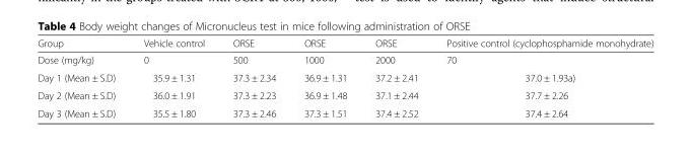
<table><thead><tr><td>Group</td><td>Vehicle control</td><td>ORSE</td><td>ORSE</td><td>ORSE</td><td>Positive control (cyclophosphamide monohydrate)</td></tr></thead><tbody><tr><td>Dose (mg/kg)</td><td>0</td><td>500</td><td>1000</td><td>2000</td><td>70</td></tr><tr><td>Day 1 (Mean ± S.D)</td><td>35.9 ± 1.31</td><td>37.3 ± 2.34</td><td>36.9 ± 1.31</td><td>37.2 ± 2.41</td><td>37.0 ± 1.93a)</td></tr><tr><td>Day 2 (Mean ± S.D)</td><td>36.0 ± 1.91</td><td>37.3 ± 2.23</td><td>36.9 ± 1.48</td><td>37.1 ± 2.44</td><td>37.7 ± 2.26</td></tr><tr><td>Day 3 (Mean ± S.D)</td><td>35.5 ± 1.80</td><td>37.3 ± 2.46</td><td>37.3 ± 1.51</td><td>37.4 ± 2.52</td><td>37.4 ± 2.64</td></tr></tbody></table>